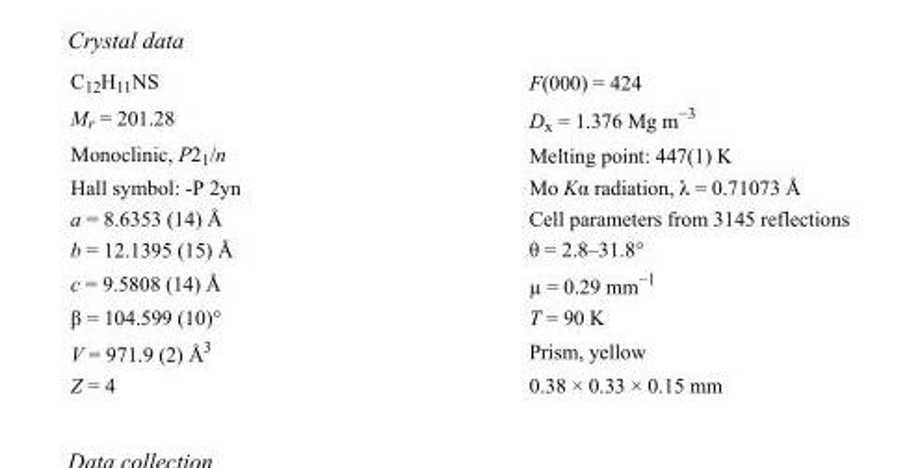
<table><tbody><tr><td>C<sub>12</sub>H<sub>11</sub>NS</td><td>F(000) = 424</td></tr><tr><td>M<sub>r</sub> = 201.28</td><td>D<sub>x</sub> = 1.376 Mg m<sup>−3</sup></td></tr><tr><td>Monoclinic, P2<sub>1</sub>/n</td><td>Melting point: 447(1) K</td></tr><tr><td>Hall symbol: -P 2yn</td><td>Mo Kα radiation, λ = 0.71073 Å</td></tr><tr><td>a = 8.6353 (14) Å</td><td>Cell parameters from 3145 reflections</td></tr><tr><td>b = 12.1395 (15) Å</td><td>θ = 2.8–31.8°</td></tr><tr><td>c = 9.5808 (14) Å</td><td>µ = 0.29 mm<sup>−1</sup></td></tr><tr><td>β = 104.599 (10)°</td><td>T = 90 K</td></tr><tr><td>V = 971.9 (2) Å<sup>3</sup></td><td>Prism, yellow</td></tr><tr><td>Z = 4</td><td>0.38 × 0.33 × 0.15 mm</td></tr></tbody></table>